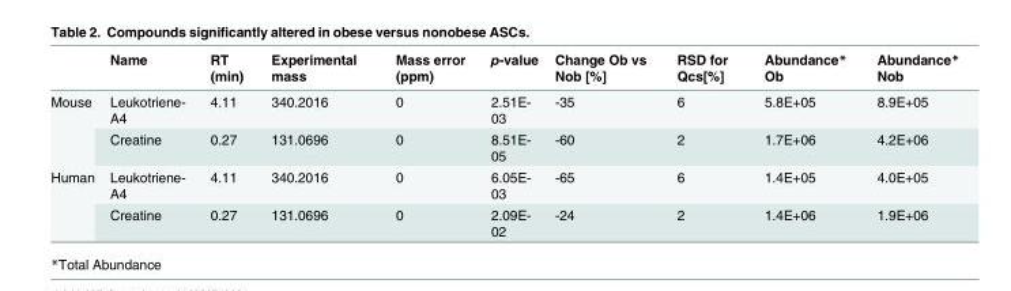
<table><thead><tr><td></td><td>Name</td><td>RT (min)</td><td>Experimental mass</td><td>Mass error (ppm)</td><td>p-value</td><td>Change Ob vs Nob [%]</td><td>RSD for Qcs[%]</td><td>Abundance* Ob</td><td>Abundance* Nob</td></tr></thead><tbody><tr><td rowspan="2">Mouse</td><td>Leukotriene- A4</td><td>4.11</td><td>340.2016</td><td>0</td><td>2.51E- 03</td><td>-35</td><td>6</td><td>5.8E+05</td><td>8.9E+05</td></tr><tr><td>Creatine</td><td>0.27</td><td>131.0696</td><td>0</td><td>8.51E- 05</td><td>-60</td><td>2</td><td>1.7E+06</td><td>4.2E+06</td></tr><tr><td rowspan="2">Human</td><td>Leukotriene- A4</td><td>4.11</td><td>340.2016</td><td>0</td><td>6.05E- 03</td><td>-65</td><td>6</td><td>1.4E+05</td><td>4.0E+05</td></tr><tr><td>Creatine</td><td>0.27</td><td>131.0696</td><td>0</td><td>2.09E- 02</td><td>-24</td><td>2</td><td>1.4E+06</td><td>1.9E+06</td></tr></tbody></table>